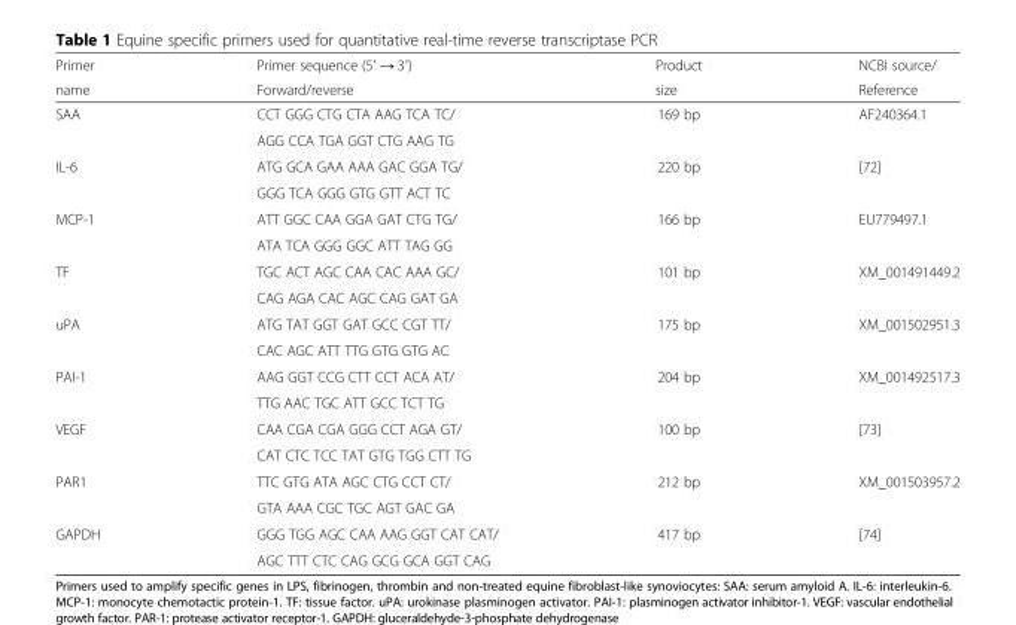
<table><thead><tr><td rowspan="2">Primer name</td><td rowspan="2">Primer sequence (5′ → 3′) Forward/reverse</td><td rowspan="2">Product size</td><td rowspan="2">NCBI source/ Reference</td></tr><tr></tr></thead><tbody><tr><td rowspan="2">SAA</td><td>CCT GGG CTG CTA AAG TCA TC/</td><td>169 bp</td><td>AF240364.1</td></tr><tr><td>AGG CCA TGA GGT CTG AAG TG</td><td></td><td></td></tr><tr><td rowspan="2">IL-6</td><td>ATG GCA GAA AAA GAC GGA TG/</td><td>220 bp</td><td>[72]</td></tr><tr><td>GGG TCA GGG GTG GTT ACT TC</td><td></td><td></td></tr><tr><td rowspan="2">MCP-1</td><td>ATT GGC CAA GGA GAT CTG TG/</td><td>166 bp</td><td>EU779497.1</td></tr><tr><td>ATA TCA GGG GGC ATT TAG GG</td><td></td><td></td></tr><tr><td rowspan="2">TF</td><td>TGC ACT AGC CAA CAC AAA GC/</td><td>101 bp</td><td>XM_001491449.2</td></tr><tr><td>CAG AGA CAC AGC CAG GAT GA</td><td></td><td></td></tr><tr><td rowspan="2">uPA</td><td>ATG TAT GGT GAT GCC CGT TT/</td><td>175 bp</td><td>XM_001502951.3</td></tr><tr><td>CAC AGC ATT TTG GTG GTG AC</td><td></td><td></td></tr><tr><td rowspan="2">PAI-1</td><td>AAG GGT CCG CTT CCT ACA AT/</td><td>204 bp</td><td>XM_001492517.3</td></tr><tr><td>TTG AAC TGC ATT GCC TCT TG</td><td></td><td></td></tr><tr><td rowspan="2">VEGF</td><td>CAA CGA CGA GGG CCT AGA GT/</td><td>100 bp</td><td>[73]</td></tr><tr><td>CAT CTC TCC TAT GTG TGG CTT TG</td><td></td><td></td></tr><tr><td rowspan="2">PAR1</td><td>TTC GTG ATA AGC CTG CCT CT/</td><td>212 bp</td><td>XM_001503957.2</td></tr><tr><td>GTA AAA CGC TGC AGT GAC GA</td><td></td><td></td></tr><tr><td rowspan="2">GAPDH</td><td>GGG TGG AGC CAA AAG GGT CAT CAT/</td><td>417 bp</td><td>[74]</td></tr><tr><td>AGC TTT CTC CAG GCG GCA GGT CAG</td><td></td><td></td></tr></tbody></table>